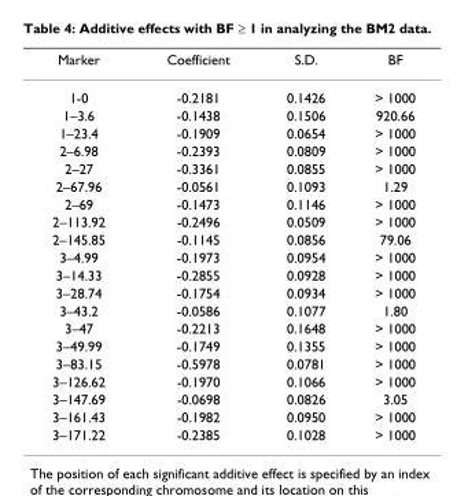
<table><thead><tr><td>Marker</td><td>Coefficient</td><td>S.D.</td><td>BF</td></tr></thead><tbody><tr><td>1-0</td><td>-0.2181</td><td>0.1426</td><td>&gt; 1000</td></tr><tr><td>1–3.6</td><td>-0.1438</td><td>0.1506</td><td>920.66</td></tr><tr><td>1–23.4</td><td>-0.1909</td><td>0.0654</td><td>&gt; 1000</td></tr><tr><td>2–6.98</td><td>-0.2393</td><td>0.0809</td><td>&gt; 1000</td></tr><tr><td>2–27</td><td>-0.3361</td><td>0.0855</td><td>&gt; 1000</td></tr><tr><td>2–67.96</td><td>-0.0561</td><td>0.1093</td><td>1.29</td></tr><tr><td>2–69</td><td>-0.1473</td><td>0.1146</td><td>&gt; 1000</td></tr><tr><td>2–113.92</td><td>-0.2496</td><td>0.0509</td><td>&gt; 1000</td></tr><tr><td>2–145.85</td><td>-0.1145</td><td>0.0856</td><td>79.06</td></tr><tr><td>3–4.99</td><td>-0.1973</td><td>0.0954</td><td>&gt; 1000</td></tr><tr><td>3–14.33</td><td>-0.2855</td><td>0.0928</td><td>&gt; 1000</td></tr><tr><td>3–28.74</td><td>-0.1754</td><td>0.0934</td><td>&gt; 1000</td></tr><tr><td>3–43.2</td><td>-0.0586</td><td>0.1077</td><td>1.80</td></tr><tr><td>3–47</td><td>-0.2213</td><td>0.1648</td><td>&gt; 1000</td></tr><tr><td>3–49.99</td><td>-0.1749</td><td>0.1355</td><td>&gt; 1000</td></tr><tr><td>3–83.15</td><td>-0.5978</td><td>0.0781</td><td>&gt; 1000</td></tr><tr><td>3–126.62</td><td>-0.1970</td><td>0.1066</td><td>&gt; 1000</td></tr><tr><td>3–147.69</td><td>-0.0698</td><td>0.0826</td><td>3.05</td></tr><tr><td>3–161.43</td><td>-0.1982</td><td>0.0950</td><td>&gt; 1000</td></tr><tr><td>3–171.22</td><td>-0.2385</td><td>0.1028</td><td>&gt; 1000</td></tr></tbody></table>